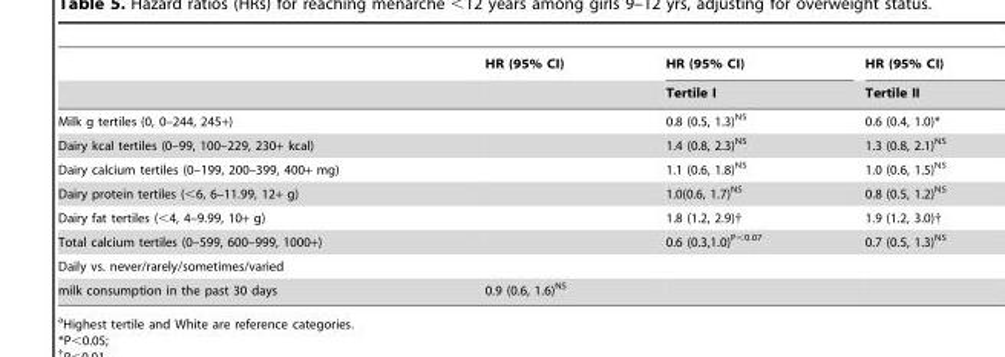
<table><thead><tr><td rowspan="2"></td><td rowspan="2">HR (95% CI)</td><td rowspan="2">HR (95% CI) Tertile I</td><td rowspan="2">HR (95% CI) Tertile II</td></tr><tr></tr></thead><tbody><tr><td>Milk g tertiles (0, 0–244, 245+)</td><td></td><td>0.8 (0.5, 1.3)<sup>NS</sup></td><td>0.6 (0.4, 1.0)*</td></tr><tr><td>Dairy kcal tertiles (0–99, 100–229, 230+ kcal)</td><td></td><td>1.4 (0.8, 2.3)<sup>NS</sup></td><td>1.3 (0.8, 2.1)<sup>NS</sup></td></tr><tr><td>Dairy calcium tertiles (0–199, 200–399, 400+ mg)</td><td></td><td>1.1 (0.6, 1.8)<sup>NS</sup></td><td>1.0 (0.6, 1.5)<sup>NS</sup></td></tr><tr><td>Dairy protein tertiles (&lt;6, 6–11.99, 12+ g)</td><td></td><td>1.0(0.6, 1.7)<sup>NS</sup></td><td>0.8 (0.5, 1.2)<sup>NS</sup></td></tr><tr><td>Dairy fat tertiles (&lt;4, 4–9.99, 10+ g)</td><td></td><td>1.8 (1.2, 2.9)†</td><td>1.9 (1.2, 3.0)†</td></tr><tr><td>Total calcium tertiles (0–599, 600–999, 1000+)</td><td></td><td>0.6 (0.3,1.0)<sup>P&lt;0.07</sup></td><td>0.7 (0.5, 1.3)<sup>NS</sup></td></tr><tr><td colspan="4">Daily vs. never/rarely/sometimes/varied</td></tr><tr><td>milk consumption in the past 30 days</td><td>0.9 (0.6, 1.6)<sup>NS</sup></td><td></td><td></td></tr></tbody></table>